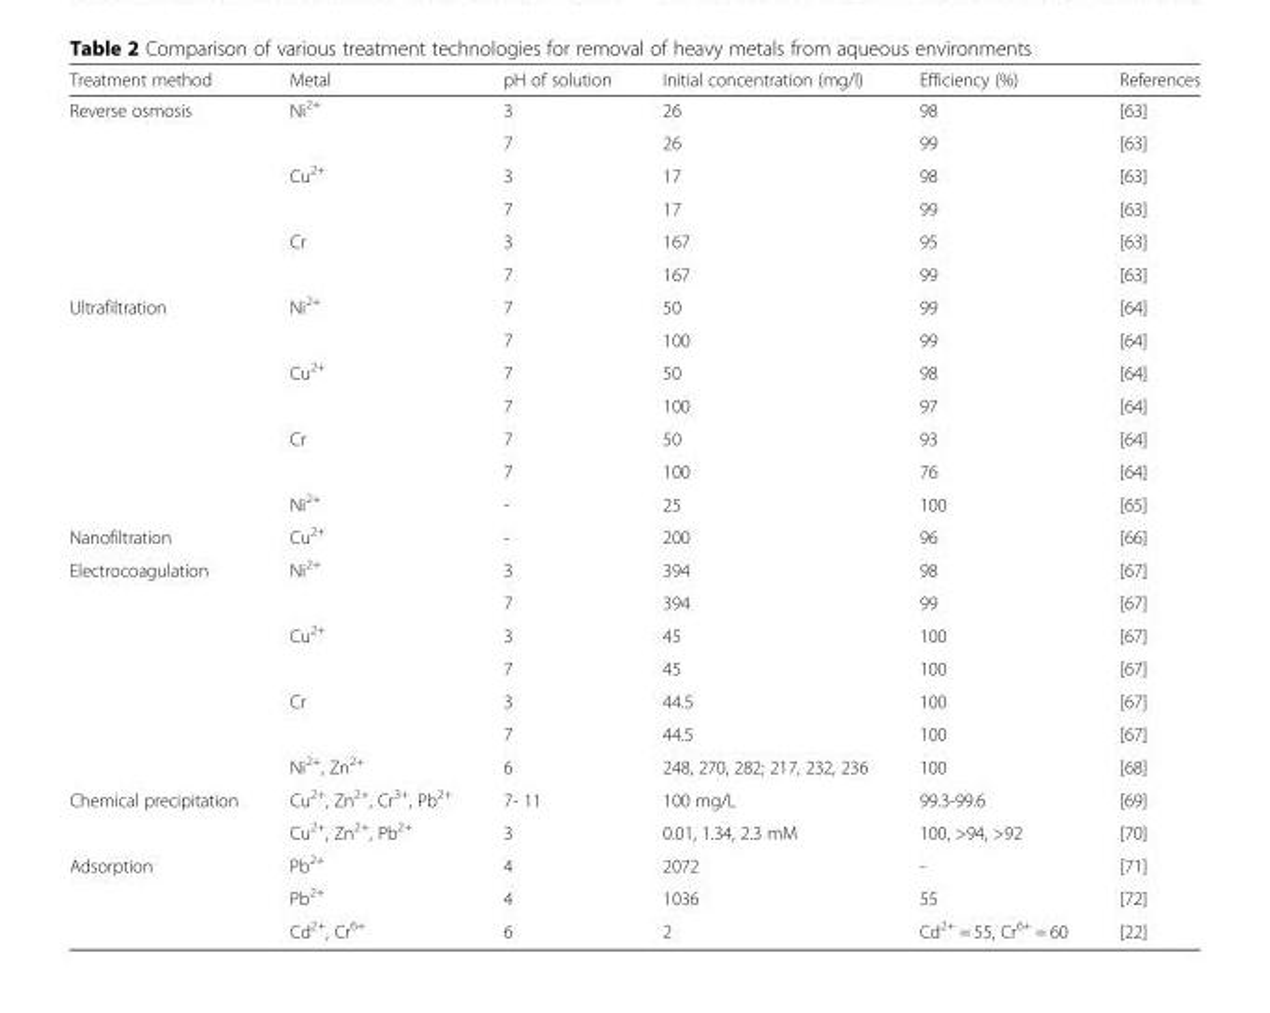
<table><thead><tr><td>Treatment method</td><td>Metal</td><td>pH of solution</td><td>Initial concentration (mg/l)</td><td>Efficiency (%)</td><td>References</td></tr></thead><tbody><tr><td rowspan="6">Reverse osmosis</td><td>Ni<sup>2+</sup></td><td>3</td><td>26</td><td>98</td><td>[63]</td></tr><tr><td></td><td>7</td><td>26</td><td>99</td><td>[63]</td></tr><tr><td>Cu<sup>2+</sup></td><td>3</td><td>17</td><td>98</td><td>[63]</td></tr><tr><td></td><td>7</td><td>17</td><td>99</td><td>[63]</td></tr><tr><td>Cr</td><td>3</td><td>167</td><td>95</td><td>[63]</td></tr><tr><td></td><td>7</td><td>167</td><td>99</td><td>[63]</td></tr><tr><td rowspan="7">Ultrafiltration</td><td>Ni<sup>2+</sup></td><td>7</td><td>50</td><td>99</td><td>[64]</td></tr><tr><td></td><td>7</td><td>100</td><td>99</td><td>[64]</td></tr><tr><td>Cu<sup>2+</sup></td><td>7</td><td>50</td><td>98</td><td>[64]</td></tr><tr><td></td><td>7</td><td>100</td><td>97</td><td>[64]</td></tr><tr><td>Cr</td><td>7</td><td>50</td><td>93</td><td>[64]</td></tr><tr><td></td><td>7</td><td>100</td><td>76</td><td>[64]</td></tr><tr><td>Ni<sup>2+</sup></td><td>-</td><td>25</td><td>100</td><td>[65]</td></tr><tr><td>Nanofiltration</td><td>Cu<sup>2+</sup></td><td>-</td><td>200</td><td>96</td><td>[66]</td></tr><tr><td rowspan="7">Electrocoagulation</td><td>Ni<sup>2+</sup></td><td>3</td><td>394</td><td>98</td><td>[67]</td></tr><tr><td></td><td>7</td><td>394</td><td>99</td><td>[67]</td></tr><tr><td>Cu<sup>2+</sup></td><td>3</td><td>45</td><td>100</td><td>[67]</td></tr><tr><td></td><td>7</td><td>45</td><td>100</td><td>[67]</td></tr><tr><td>Cr</td><td>3</td><td>44.5</td><td>100</td><td>[67]</td></tr><tr><td></td><td>7</td><td>44.5</td><td>100</td><td>[67]</td></tr><tr><td>Ni<sup>2+</sup>, Zn<sup>2+</sup></td><td>6</td><td>248, 270, 282; 217, 232, 236</td><td>100</td><td>[68]</td></tr><tr><td rowspan="2">Chemical precipitation</td><td>Cu<sup>2+</sup>, Zn<sup>2+</sup>, Cr<sup>3+</sup>, Pb<sup>2+</sup></td><td>7- 11</td><td>100 mg/L</td><td>99.3-99.6</td><td>[69]</td></tr><tr><td>Cu<sup>2+</sup>, Zn<sup>2+</sup>, Pb<sup>2+</sup></td><td>3</td><td>0.01, 1.34, 2.3 mM</td><td>100, &gt;94, &gt;92</td><td>[70]</td></tr><tr><td rowspan="3">Adsorption</td><td>Pb<sup>2+</sup></td><td>4</td><td>2072</td><td>-</td><td>[71]</td></tr><tr><td>Pb<sup>2+</sup></td><td>4</td><td>1036</td><td>55</td><td>[72]</td></tr><tr><td>Cd<sup>2+</sup>, Cr<sup>6+</sup></td><td>6</td><td>2</td><td>Cd<sup>2+</sup> = 55, Cr<sup>6+</sup> = 60</td><td>[22]</td></tr></tbody></table>